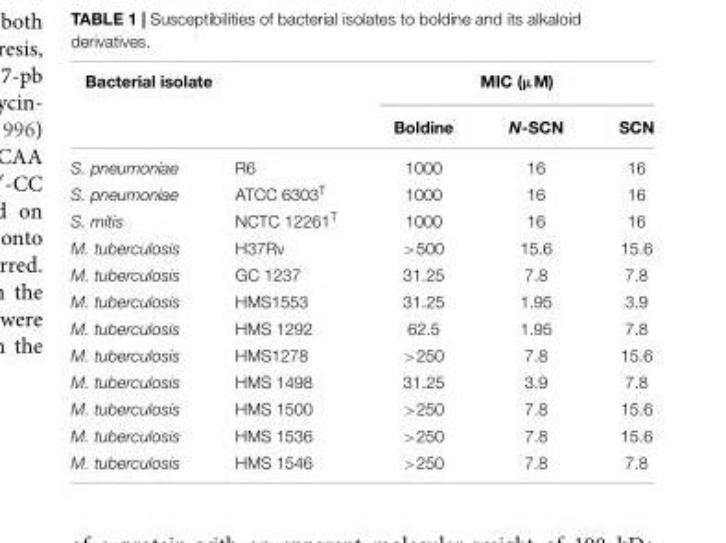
<table><thead><tr><td colspan="2">Bacterial isolate</td><td colspan="3">MIC (µM)</td></tr><tr><td></td><td></td><td>Boldine</td><td>N-SCN</td><td>SCN</td></tr></thead><tbody><tr><td>S. pneumoniae</td><td>R6</td><td>1000</td><td>16</td><td>16</td></tr><tr><td>S. pneumoniae</td><td>ATCC 6303<sup>T</sup></td><td>1000</td><td>16</td><td>16</td></tr><tr><td>S. mitis</td><td>NCTC 12261<sup>T</sup></td><td>1000</td><td>16</td><td>16</td></tr><tr><td>M. tuberculosis</td><td>H37Rv</td><td>&gt;500</td><td>15.6</td><td>15.6</td></tr><tr><td>M. tuberculosis</td><td>GC 1237</td><td>31.25</td><td>7.8</td><td>7.8</td></tr><tr><td>M. tuberculosis</td><td>HMS1553</td><td>31.25</td><td>1.95</td><td>3.9</td></tr><tr><td>M. tuberculosis</td><td>HMS 1292</td><td>62.5</td><td>1.95</td><td>7.8</td></tr><tr><td>M. tuberculosis</td><td>HMS1278</td><td>&gt;250</td><td>7.8</td><td>15.6</td></tr><tr><td>M. tuberculosis</td><td>HMS 1498</td><td>31.25</td><td>3.9</td><td>7.8</td></tr><tr><td>M. tuberculosis</td><td>HMS 1500</td><td>&gt;250</td><td>7.8</td><td>15.6</td></tr><tr><td>M. tuberculosis</td><td>HMS 1536</td><td>&gt;250</td><td>7.8</td><td>15.6</td></tr><tr><td>M. tuberculosis</td><td>HMS 1546</td><td>&gt;250</td><td>7.8</td><td>7.8</td></tr></tbody></table>